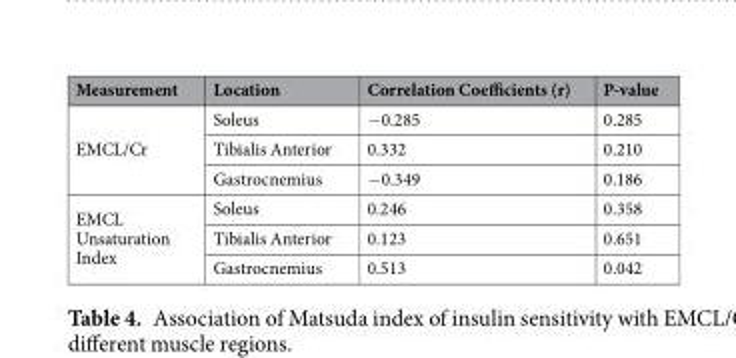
<table><thead><tr><td>Measurement</td><td>Location</td><td>Correlation Coefficients (r)</td><td>P-value</td></tr></thead><tbody><tr><td rowspan="3">EMCL/Cr</td><td>Soleus</td><td>−0.285</td><td>0.285</td></tr><tr><td>Tibialis Anterior</td><td>0.332</td><td>0.210</td></tr><tr><td>Gastrocnemius</td><td>−0.349</td><td>0.186</td></tr><tr><td rowspan="3">EMCL Unsaturation Index</td><td>Soleus</td><td>0.246</td><td>0.358</td></tr><tr><td>Tibialis Anterior</td><td>0.123</td><td>0.651</td></tr><tr><td>Gastrocnemius</td><td>0.513</td><td>0.042</td></tr></tbody></table>